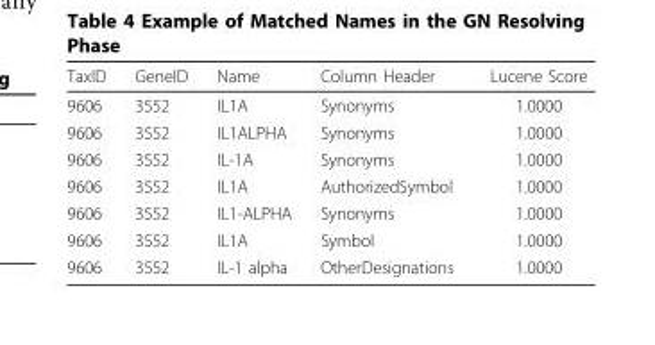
<table><thead><tr><td>TaxID</td><td>GeneID</td><td>Name</td><td>Column Header</td><td>Lucene Score</td></tr></thead><tbody><tr><td>9606</td><td>3552</td><td>IL1A</td><td>Synonyms</td><td>1.0000</td></tr><tr><td>9606</td><td>3552</td><td>IL1ALPHA</td><td>Synonyms</td><td>1.0000</td></tr><tr><td>9606</td><td>3552</td><td>IL-1A</td><td>Synonyms</td><td>1.0000</td></tr><tr><td>9606</td><td>3552</td><td>IL1A</td><td>AuthorizedSymbol</td><td>1.0000</td></tr><tr><td>9606</td><td>3552</td><td>IL1-ALPHA</td><td>Synonyms</td><td>1.0000</td></tr><tr><td>9606</td><td>3552</td><td>IL1A</td><td>Symbol</td><td>1.0000</td></tr><tr><td>9606</td><td>3552</td><td>IL-1 alpha</td><td>OtherDesignations</td><td>1.0000</td></tr></tbody></table>